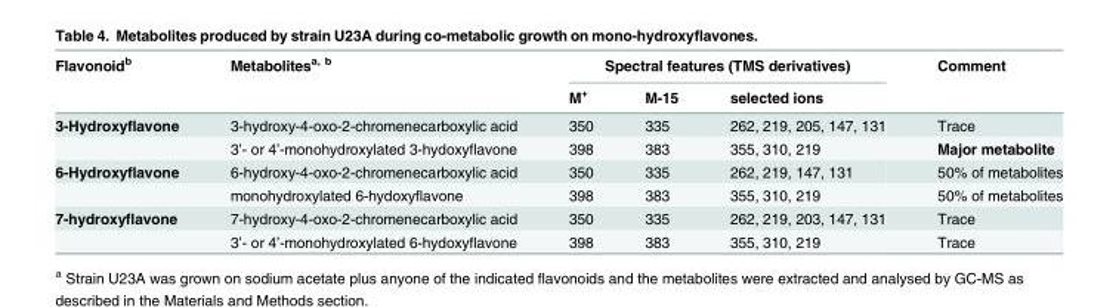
<table><thead><tr><td rowspan="2">Flavonoid<sup>b</sup></td><td rowspan="2">Metabolites<sup>a, b</sup></td><td colspan="3">Spectral features (TMS derivatives)</td><td rowspan="2">Comment</td></tr><tr><td>M<sup>+</sup></td><td>M-15</td><td>selected ions</td></tr></thead><tbody><tr><td rowspan="2">3-Hydroxyflavone</td><td>3-hydroxy-4-oxo-2-chromenecarboxylic acid</td><td>350</td><td>335</td><td>262, 219, 205, 147, 131</td><td>Trace</td></tr><tr><td>3’- or 4’-monohydroxylated 3-hydoxyflavone</td><td>398</td><td>383</td><td>355, 310, 219</td><td>Major metabolite</td></tr><tr><td rowspan="2">6-Hydroxyflavone</td><td>6-hydroxy-4-oxo-2-chromenecarboxylic acid</td><td>350</td><td>335</td><td>262, 219, 147, 131</td><td>50% of metabolites</td></tr><tr><td>monohydroxylated 6-hydoxyflavone</td><td>398</td><td>383</td><td>355, 310, 219</td><td>50% of metabolites</td></tr><tr><td rowspan="2">7-hydroxyflavone</td><td>7-hydroxy-4-oxo-2-chromenecarboxylic acid</td><td>350</td><td>335</td><td>262, 219, 203, 147, 131</td><td>Trace</td></tr><tr><td>3’- or 4’-monohydroxylated 6-hydoxyflavone</td><td>398</td><td>383</td><td>355, 310, 219</td><td>Trace</td></tr></tbody></table>